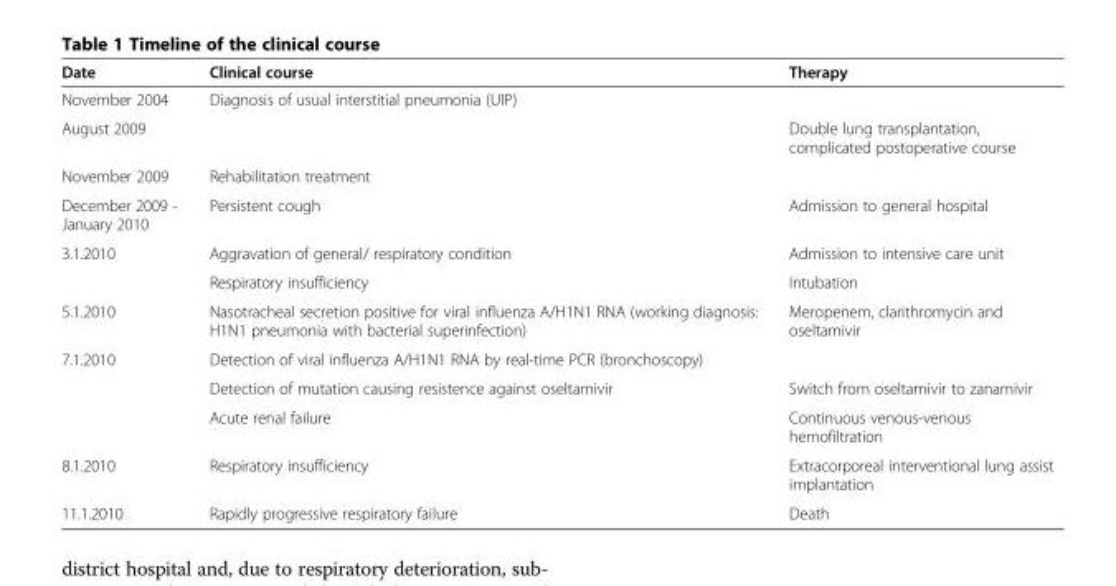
<table><thead><tr><td>Date</td><td>Clinical course</td><td>Therapy</td></tr></thead><tbody><tr><td>November 2004</td><td>Diagnosis of usual interstitial pneumonia (UIP)</td><td></td></tr><tr><td>August 2009</td><td></td><td>Double lung transplantation, complicated postoperative course</td></tr><tr><td>November 2009</td><td>Rehabilitation treatment</td><td></td></tr><tr><td>December 2009 - January 2010</td><td>Persistent cough</td><td>Admission to general hospital</td></tr><tr><td rowspan="2">3.1.2010</td><td>Aggravation of general/ respiratory condition</td><td>Admission to intensive care unit</td></tr><tr><td>Respiratory insufficiency</td><td>Intubation</td></tr><tr><td>5.1.2010</td><td>Nasotracheal secretion positive for viral influenza A/H1N1 RNA (working diagnosis: H1N1 pneumonia with bacterial superinfection)</td><td>Meropenem, clarithromycin and oseltamivir</td></tr><tr><td rowspan="3">7.1.2010</td><td>Detection of viral influenza A/H1N1 RNA by real-time PCR (bronchoscopy)</td><td></td></tr><tr><td>Detection of mutation causing resistence against oseltamivir</td><td>Switch from oseltamivir to zanamivir</td></tr><tr><td>Acute renal failure</td><td>Continuous venous-venous hemofiltration</td></tr><tr><td>8.1.2010</td><td>Respiratory insufficiency</td><td>Extracorporeal interventional lung assist implantation</td></tr><tr><td>11.1.2010</td><td>Rapidly progressive respiratory failure</td><td>Death</td></tr></tbody></table>